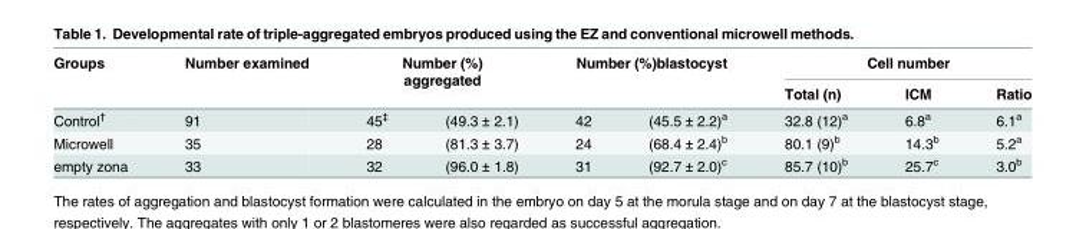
<table><thead><tr><td rowspan="3">Groups Control<sup>†</sup></td><td rowspan="3">Number examined 91</td><td rowspan="2" colspan="2">Number (%) aggregated</td><td rowspan="2" colspan="2">Number (%)blastocyst</td><td colspan="3">Cell number</td></tr><tr><td rowspan="2">Total (n) 32.8 (12)<sup>a</sup></td><td rowspan="2">ICM 6.8<sup>a</sup></td><td rowspan="2">Ratio 6.1<sup>a</sup></td></tr><tr><td>45<sup>‡</sup></td><td>(49.3 ± 2.1)</td><td>42</td><td>(45.5 ± 2.2)<sup>a</sup></td></tr></thead><tbody><tr><td>Microwell</td><td>35</td><td>28</td><td>(81.3 ± 3.7)</td><td>24</td><td>(68.4 ± 2.4)<sup>b</sup></td><td>80.1 (9)<sup>b</sup></td><td>14.3<sup>b</sup></td><td>5.2<sup>a</sup></td></tr><tr><td>empty zona</td><td>33</td><td>32</td><td>(96.0 ± 1.8)</td><td>31</td><td>(92.7 ± 2.0)<sup>c</sup></td><td>85.7 (10)<sup>b</sup></td><td>25.7<sup>c</sup></td><td>3.0<sup>b</sup></td></tr></tbody></table>